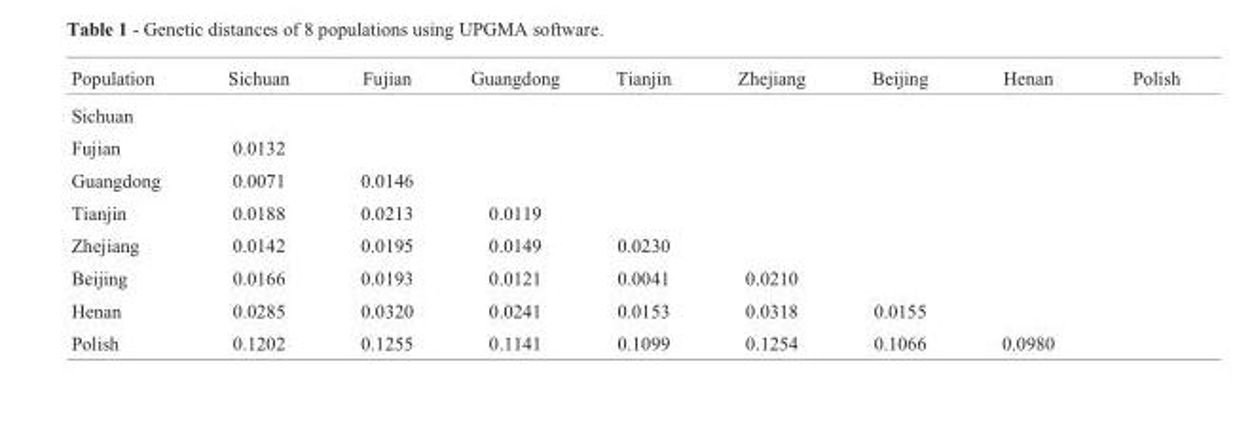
<table><thead><tr><td>Population</td><td>Sichuan</td><td>Fujian</td><td>Guangdong</td><td>Tianjin</td><td>Zhejiang</td><td>Beijing</td><td>Henan</td><td>Polish</td></tr></thead><tbody><tr><td colspan="9">Sichuan</td></tr><tr><td>Fujian</td><td>0.0132</td><td></td><td></td><td></td><td></td><td></td><td></td><td></td></tr><tr><td>Guangdong</td><td>0.0071</td><td>0.0146</td><td></td><td></td><td></td><td></td><td></td><td></td></tr><tr><td>Tianjin</td><td>0.0188</td><td>0.0213</td><td>0.0119</td><td></td><td></td><td></td><td></td><td></td></tr><tr><td>Zhejiang</td><td>0.0142</td><td>0.0195</td><td>0.0149</td><td>0.0230</td><td></td><td></td><td></td><td></td></tr><tr><td>Beijing</td><td>0.0166</td><td>0.0193</td><td>0.0121</td><td>0.0041</td><td>0.0210</td><td></td><td></td><td></td></tr><tr><td>Henan</td><td>0.0285</td><td>0.0320</td><td>0.0241</td><td>0.0153</td><td>0.0318</td><td>0.0155</td><td></td><td></td></tr><tr><td>Polish</td><td>0.1202</td><td>0.1255</td><td>0.1141</td><td>0.1099</td><td>0.1254</td><td>0.1066</td><td>0.0980</td><td></td></tr></tbody></table>